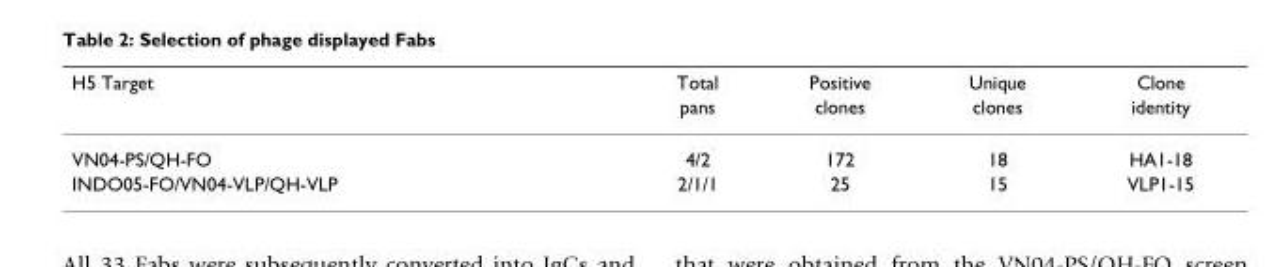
<table><thead><tr><td rowspan="2">H5 Target</td><td rowspan="2">Total pans</td><td rowspan="2">Positive clones</td><td rowspan="2">Unique clones</td><td rowspan="2">Clone identity</td></tr><tr></tr></thead><tbody><tr><td>VN04-PS/QH-FO</td><td>4/2</td><td>172</td><td>18</td><td>HA1-18</td></tr><tr><td>INDO05-FO/VN04-VLP/QH-VLP</td><td>2/1/1</td><td>25</td><td>15</td><td>VLP1-15</td></tr></tbody></table>